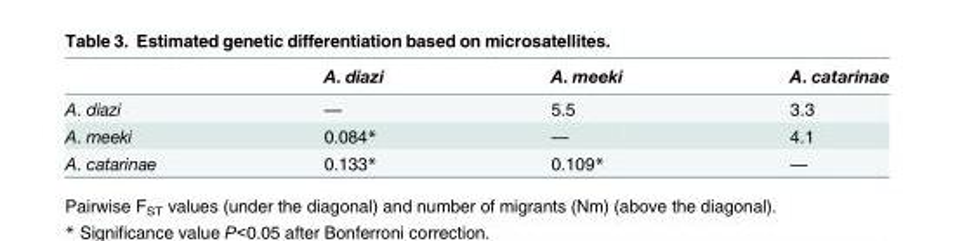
<table><thead><tr><td></td><td>A. diazi</td><td>A. meeki</td><td>A. catarinae</td></tr></thead><tbody><tr><td>A. diazi</td><td>—</td><td>5.5</td><td>3.3</td></tr><tr><td>A. meeki</td><td>0.084*</td><td>—</td><td>4.1</td></tr><tr><td>A. catarinae</td><td>0.133*</td><td>0.109*</td><td>—</td></tr></tbody></table>